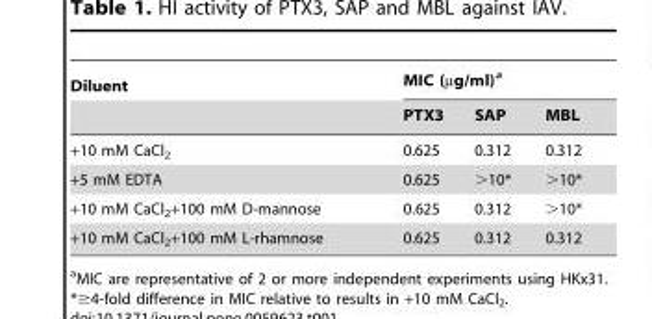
<table><thead><tr><td rowspan="2">Diluent</td><td colspan="3">MIC (µg/ml)<sup>a</sup></td></tr><tr><td>PTX3</td><td>SAP</td><td>MBL</td></tr></thead><tbody><tr><td>+10 mM CaCl<sub>2</sub></td><td>0.625</td><td>0.312</td><td>0.312</td></tr><tr><td>+5 mM EDTA</td><td>0.625</td><td>&gt;10*</td><td>&gt;10*</td></tr><tr><td>+10 mM CaCl<sub>2</sub>+100 mM D-mannose</td><td>0.625</td><td>0.312</td><td>&gt;10*</td></tr><tr><td>+10 mM CaCl<sub>2</sub>+100 mM L-rhamnose</td><td>0.625</td><td>0.312</td><td>0.312</td></tr></tbody></table>